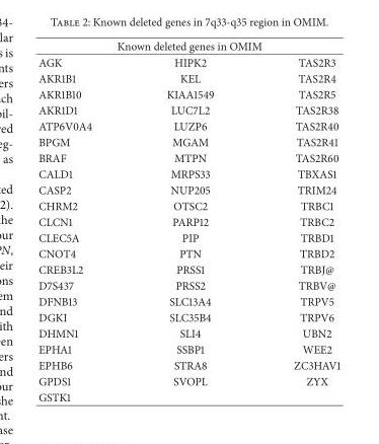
<table><thead><tr><td colspan="3">Known deleted genes in OMIM</td></tr><tr><td>AGK</td><td>HIPK2</td><td>TAS2R3</td></tr></thead><tbody><tr><td>AKR1B1</td><td>KEL</td><td>TAS2R4</td></tr><tr><td>AKR1B10</td><td>KIAA1549</td><td>TAS2R5</td></tr><tr><td>AKR1D1</td><td>LUC7L2</td><td>TAS2R38</td></tr><tr><td>ATP6V0A4</td><td>LUZP6</td><td>TAS2R40</td></tr><tr><td>BPGM</td><td>MGAM</td><td>TAS2R41</td></tr><tr><td>BRAF</td><td>MTPN</td><td>TAS2R60</td></tr><tr><td>CALD1</td><td>MRPS33</td><td>TBXAS1</td></tr><tr><td>CASP2</td><td>NUP205</td><td>TRIM24</td></tr><tr><td>CHRM2</td><td>OTSC2</td><td>TRBC1</td></tr><tr><td>CLCN1</td><td>PARP12</td><td>TRBC2</td></tr><tr><td>CLEC5A</td><td>PIP</td><td>TRBD1</td></tr><tr><td>CNOT4</td><td>PTN</td><td>TRBD2</td></tr><tr><td>CREB3L2</td><td>PRSS1</td><td>TRBJ@</td></tr><tr><td>D7S437</td><td>PRSS2</td><td>TRBV@</td></tr><tr><td>DFNB13</td><td>SLC13A4</td><td>TRPV5</td></tr><tr><td>DGKI</td><td>SLC35B4</td><td>TRPV6</td></tr><tr><td>DHMN1</td><td>SLI4</td><td>UBN2</td></tr><tr><td>EPHA1</td><td>SSBP1</td><td>WEE2</td></tr><tr><td>EPHB6</td><td>STRA8</td><td>ZC3HAV1</td></tr><tr><td>GPDS1</td><td>SVOPL</td><td>ZYX</td></tr><tr><td>GSTK1</td><td></td><td></td></tr></tbody></table>